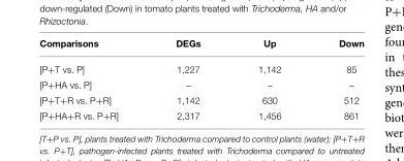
<table><thead><tr><td>Comparisons</td><td>DEGs</td><td>Up</td><td>Down</td></tr></thead><tbody><tr><td>[P+T vs. P]</td><td>1,227</td><td>1,142</td><td>85</td></tr><tr><td>[P+HA vs. P]</td><td>–</td><td>–</td><td>–</td></tr><tr><td>[P+T+R vs. P+R]</td><td>1,142</td><td>630</td><td>512</td></tr><tr><td>[P+HA+R vs. P+R]</td><td>2,317</td><td>1,456</td><td>861</td></tr></tbody></table>